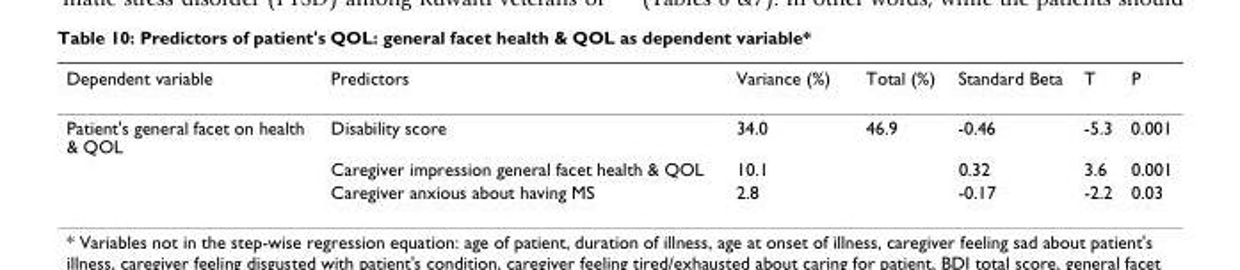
<table><thead><tr><td>Dependent variable</td><td>Predictors</td><td>Variance (%)</td><td>Total (%)</td><td>Standard Beta</td><td>T</td><td>P</td></tr></thead><tbody><tr><td rowspan="3">Patient&#x27;s general facet on health &amp; QOL</td><td>Disability score</td><td>34.0</td><td>46.9</td><td>-0.46</td><td>-5.3</td><td>0.001</td></tr><tr><td>Caregiver impression general facet health &amp; QOL</td><td>10.1</td><td></td><td>0.32</td><td>3.6</td><td>0.001</td></tr><tr><td>Caregiver anxious about having MS</td><td>2.8</td><td></td><td>-0.17</td><td>-2.2</td><td>0.03</td></tr></tbody></table>